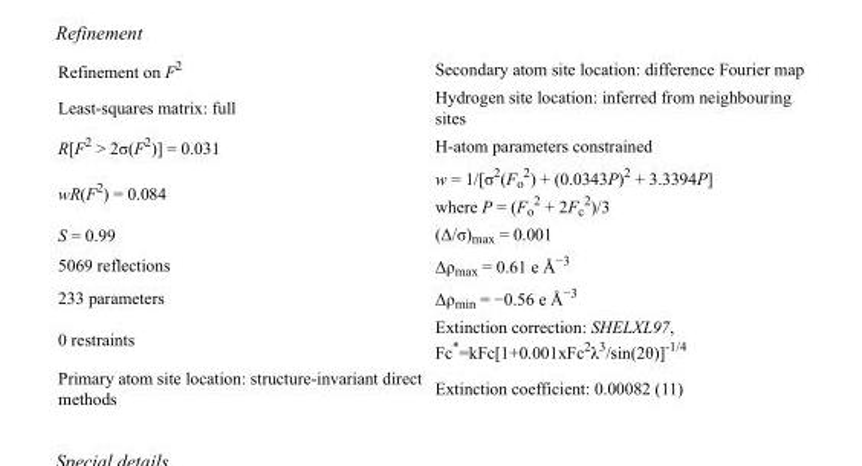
<table><tbody><tr><td>Refinement on F<sup>2</sup></td><td>Secondary atom site location: difference Fourier map</td></tr><tr><td>Least-squares matrix: full</td><td>Hydrogen site location: inferred from neighbouring sites</td></tr><tr><td>R[F<sup>2</sup> &gt; 2σ(F<sup>2</sup>)] = 0.031</td><td>H-atom parameters constrained</td></tr><tr><td>wR(F<sup>2</sup>) = 0.084</td><td>w = 1/[σ<sup>2</sup>(F<sub>o</sub> <sup>2</sup>) + (0.0343P)<sup>2</sup> + 3.3394P] where P = (F<sub>o</sub> <sup>2</sup> + 2F<sub>c</sub> <sup>2</sup>)/3</td></tr><tr><td>S = 0.99</td><td>(Δ/σ)<sub>max</sub> = 0.001</td></tr><tr><td>5069 reflections</td><td>Δρ<sub>max</sub> = 0.61 e Å<sup>−3</sup></td></tr><tr><td>233 parameters</td><td>Δρ<sub>min</sub> = −0.56 e Å<sup>−3</sup></td></tr><tr><td>0 restraints</td><td>Extinction correction: SHELXL97, Fc*=kFc[1+0.001xFc<sup>2</sup>λ<sup>3</sup>/sin(2θ)]<sup>-1/4</sup></td></tr><tr><td>Primary atom site location: structure-invariant direct methods</td><td>Extinction coefficient: 0.00082 (11)</td></tr></tbody></table>